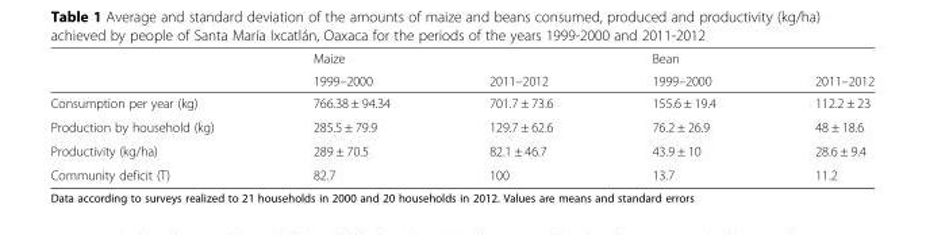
<table><thead><tr><td rowspan="2"></td><td rowspan="2">Maize 1999–2000</td><td rowspan="2">2011–2012</td><td rowspan="2">Bean 1999–2000</td><td rowspan="2">2011–2012</td></tr><tr></tr></thead><tbody><tr><td>Consumption per year (kg)</td><td>766.38 ± 94.34</td><td>701.7 ± 73.6</td><td>155.6 ± 19.4</td><td>112.2 ± 23</td></tr><tr><td>Production by household (kg)</td><td>285.5 ± 79.9</td><td>129.7 ± 62.6</td><td>76.2 ± 26.9</td><td>48 ± 18.6</td></tr><tr><td>Productivity (kg/ha)</td><td>289 ± 70.5</td><td>82.1 ± 46.7</td><td>43.9 ± 10</td><td>28.6 ± 9.4</td></tr><tr><td>Community deficit (T)</td><td>82.7</td><td>100</td><td>13.7</td><td>11.2</td></tr></tbody></table>